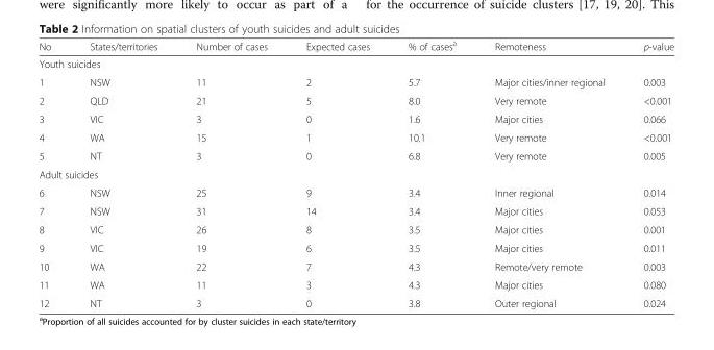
<table><thead><tr><td>No</td><td>States/territories</td><td>Number of cases</td><td>Expected cases</td><td>% of cases<sup>a</sup></td><td>Remoteness</td><td>p-value</td></tr></thead><tbody><tr><td colspan="7">Youth suicides</td></tr><tr><td>1</td><td>NSW</td><td>11</td><td>2</td><td>5.7</td><td>Major cities/inner regional</td><td>0.003</td></tr><tr><td>2</td><td>QLD</td><td>21</td><td>5</td><td>8.0</td><td>Very remote</td><td>&lt;0.001</td></tr><tr><td>3</td><td>VIC</td><td>3</td><td>0</td><td>1.6</td><td>Major cities</td><td>0.066</td></tr><tr><td>4</td><td>WA</td><td>15</td><td>1</td><td>10.1</td><td>Very remote</td><td>&lt;0.001</td></tr><tr><td>5</td><td>NT</td><td>3</td><td>0</td><td>6.8</td><td>Very remote</td><td>0.005</td></tr><tr><td colspan="7">Adult suicides</td></tr><tr><td>6</td><td>NSW</td><td>25</td><td>9</td><td>3.4</td><td>Inner regional</td><td>0.014</td></tr><tr><td>7</td><td>NSW</td><td>31</td><td>14</td><td>3.4</td><td>Major cities</td><td>0.053</td></tr><tr><td>8</td><td>VIC</td><td>26</td><td>8</td><td>3.5</td><td>Major cities</td><td>0.001</td></tr><tr><td>9</td><td>VIC</td><td>19</td><td>6</td><td>3.5</td><td>Major cities</td><td>0.011</td></tr><tr><td>10</td><td>WA</td><td>22</td><td>7</td><td>4.3</td><td>Remote/very remote</td><td>0.003</td></tr><tr><td>11</td><td>WA</td><td>11</td><td>3</td><td>4.3</td><td>Major cities</td><td>0.080</td></tr><tr><td>12</td><td>NT</td><td>3</td><td>0</td><td>3.8</td><td>Outer regional</td><td>0.024</td></tr></tbody></table>